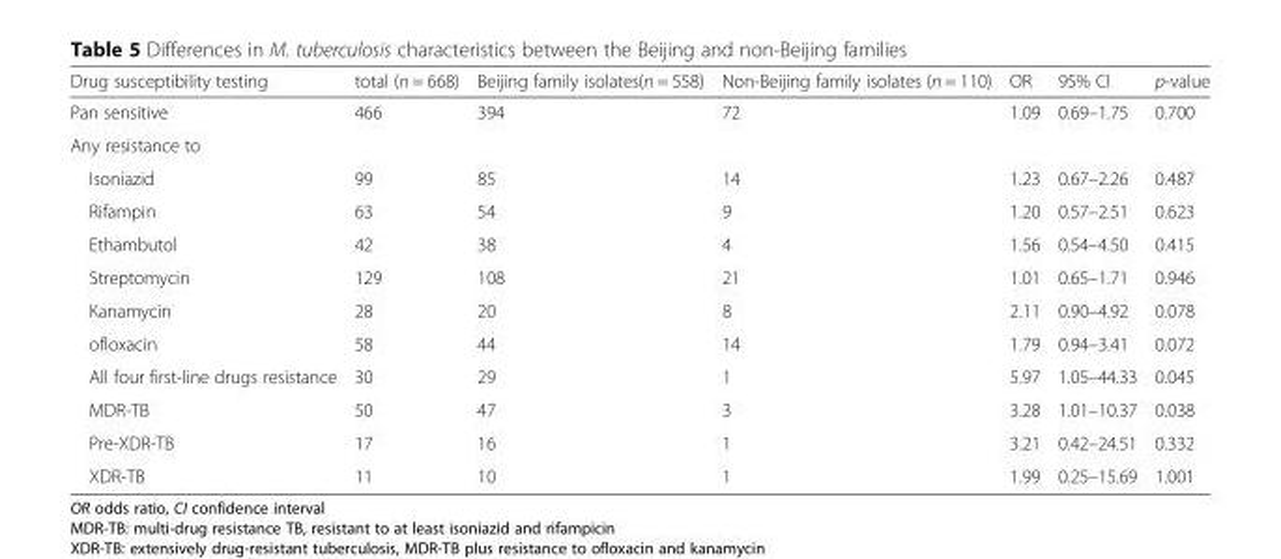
<table><thead><tr><td>Drug susceptibility testing</td><td>total (n = 668)</td><td>Beijing family isolates(n = 558)</td><td>Non-Beijing family isolates (n = 110)</td><td>OR</td><td>95% CI</td><td>p-value</td></tr></thead><tbody><tr><td>Pan sensitive</td><td>466</td><td>394</td><td>72</td><td>1.09</td><td>0.69–1.75</td><td>0.700</td></tr><tr><td colspan="7">Any resistance to</td></tr><tr><td>Isoniazid</td><td>99</td><td>85</td><td>14</td><td>1.23</td><td>0.67–2.26</td><td>0.487</td></tr><tr><td>Rifampin</td><td>63</td><td>54</td><td>9</td><td>1.20</td><td>0.57–2.51</td><td>0.623</td></tr><tr><td>Ethambutol</td><td>42</td><td>38</td><td>4</td><td>1.56</td><td>0.54–4.50</td><td>0.415</td></tr><tr><td>Streptomycin</td><td>129</td><td>108</td><td>21</td><td>1.01</td><td>0.65–1.71</td><td>0.946</td></tr><tr><td>Kanamycin</td><td>28</td><td>20</td><td>8</td><td>2.11</td><td>0.90–4.92</td><td>0.078</td></tr><tr><td>ofloxacin</td><td>58</td><td>44</td><td>14</td><td>1.79</td><td>0.94–3.41</td><td>0.072</td></tr><tr><td>All four first-line drugs resistance</td><td>30</td><td>29</td><td>1</td><td>5.97</td><td>1.05–44.33</td><td>0.045</td></tr><tr><td>MDR-TB</td><td>50</td><td>47</td><td>3</td><td>3.28</td><td>1.01–10.37</td><td>0.038</td></tr><tr><td>Pre-XDR-TB</td><td>17</td><td>16</td><td>1</td><td>3.21</td><td>0.42–24.51</td><td>0.332</td></tr><tr><td>XDR-TB</td><td>11</td><td>10</td><td>1</td><td>1.99</td><td>0.25–15.69</td><td>1.001</td></tr></tbody></table>